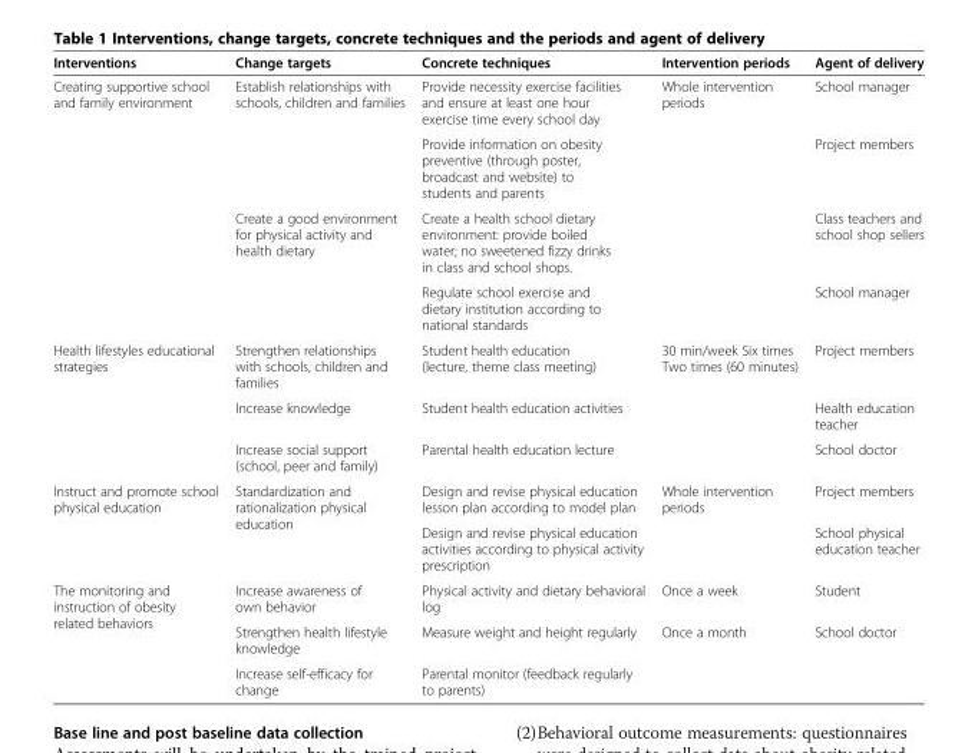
<table><thead><tr><td>Interventions</td><td>Change targets</td><td>Concrete techniques</td><td>Intervention periods</td><td>Agent of delivery</td></tr></thead><tbody><tr><td rowspan="4">Creating supportive school and family environment</td><td rowspan="2">Establish relationships with schools, children and families</td><td>Provide necessity exercise facilities and ensure at least one hour exercise time every school day</td><td rowspan="4">Whole intervention periods</td><td>School manager</td></tr><tr><td>Provide information on obesity preventive (through poster, broadcast and website) to students and parents</td><td>Project members</td></tr><tr><td rowspan="2">Create a good environment for physical activity and health dietary</td><td>Create a health school dietary environment: provide boiled water; no sweetened fizzy drinks in class and school shops.</td><td>Class teachers and school shop sellers</td></tr><tr><td>Regulate school exercise and dietary institution according to national standards</td><td>School manager</td></tr><tr><td rowspan="3">Health lifestyles educational strategies</td><td>Strengthen relationships with schools, children and families</td><td>Student health education (lecture, theme class meeting)</td><td rowspan="3">30 min/week Six times Two times (60 minutes)</td><td>Project members</td></tr><tr><td>Increase knowledge</td><td>Student health education activities</td><td>Health education teacher</td></tr><tr><td>Increase social support (school, peer and family)</td><td>Parental health education lecture</td><td>School doctor</td></tr><tr><td rowspan="2">Instruct and promote school physical education</td><td rowspan="2">Standardization and rationalization physical education</td><td>Design and revise physical education lesson plan according to model plan</td><td rowspan="2">Whole intervention periods</td><td>Project members</td></tr><tr><td>Design and revise physical education activities according to physical activity prescription</td><td>School physical education teacher</td></tr><tr><td rowspan="3">The monitoring and instruction of obesity related behaviors</td><td>Increase awareness of own behavior</td><td>Physical activity and dietary behavioral log</td><td>Once a week</td><td>Student</td></tr><tr><td>Strengthen health lifestyle knowledge</td><td>Measure weight and height regularly</td><td rowspan="2">Once a month</td><td rowspan="2">School doctor</td></tr><tr><td>Increase self-efficacy for change</td><td>Parental monitor (feedback regularly to parents)</td></tr></tbody></table>